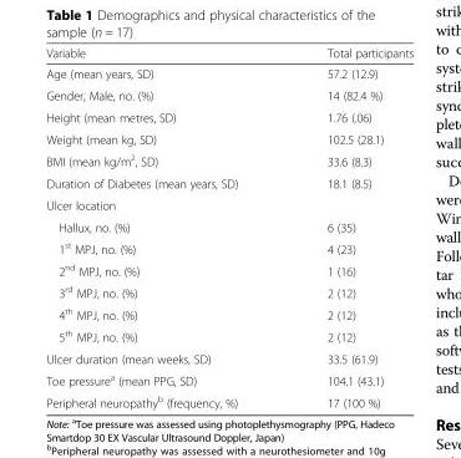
<table><thead><tr><td>Variable</td><td>Total participants</td></tr></thead><tbody><tr><td>Age (mean years, SD)</td><td>57.2 (12.9)</td></tr><tr><td>Gender, Male, no. (%)</td><td>14 (82.4 %)</td></tr><tr><td>Height (mean metres, SD)</td><td>1.76 (.06)</td></tr><tr><td>Weight (mean kg, SD)</td><td>102.5 (28.1)</td></tr><tr><td>BMI (mean kg/m<sup>2</sup>, SD)</td><td>33.6 (8.3)</td></tr><tr><td>Duration of Diabetes (mean years, SD)</td><td>18.1 (8.5)</td></tr><tr><td colspan="2">Ulcer location</td></tr><tr><td>Hallux, no. (%)</td><td>6 (35)</td></tr><tr><td>1<sup>st</sup> MPJ, no. (%)</td><td>4 (23)</td></tr><tr><td>2<sup>nd</sup> MPJ, no. (%)</td><td>1 (16)</td></tr><tr><td>3<sup>rd</sup> MPJ, no. (%)</td><td>2 (12)</td></tr><tr><td>4<sup>th</sup> MPJ, no. (%)</td><td>2 (12)</td></tr><tr><td>5<sup>th</sup> MPJ, no. (%)</td><td>2 (12)</td></tr><tr><td>Ulcer duration (mean weeks, SD)</td><td>33.5 (61.9)</td></tr><tr><td>Toe pressure<sup>a</sup> (mean PPG, SD)</td><td>104.1 (43.1)</td></tr><tr><td>Peripheral neuropathy<sup>b</sup> (frequency, %)</td><td>17 (100 %)</td></tr></tbody></table>